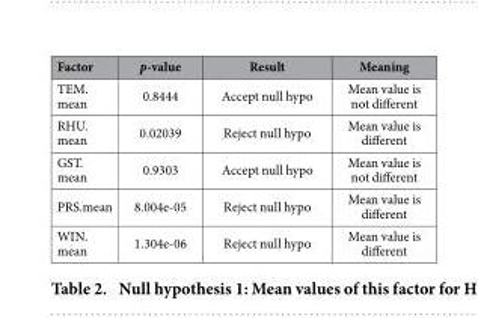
<table><thead><tr><td>Factor</td><td>p-value</td><td>Result</td><td>Meaning</td></tr></thead><tbody><tr><td>TEM. mean</td><td>0.8444</td><td>Accept null hypo</td><td>Mean value is not different</td></tr><tr><td>RHU. mean</td><td>0.02039</td><td>Reject null hypo</td><td>Mean value is different</td></tr><tr><td>GST. mean</td><td>0.9303</td><td>Accept null hypo</td><td>Mean value is not different</td></tr><tr><td>PRS.mean</td><td>8.004e-05</td><td>Reject null hypo</td><td>Mean value is different</td></tr><tr><td>WIN. mean</td><td>1.304e-06</td><td>Reject null hypo</td><td>Mean value is different</td></tr></tbody></table>